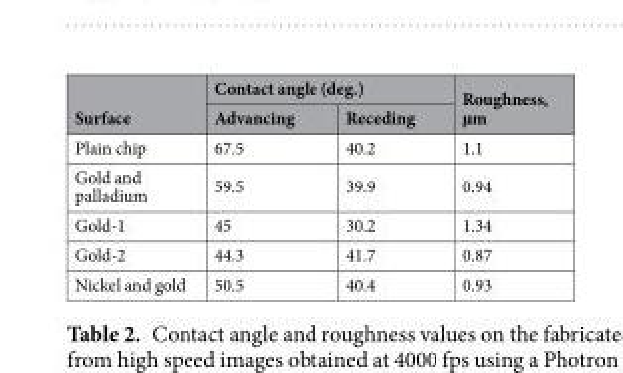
<table><thead><tr><td rowspan="2">Surface</td><td colspan="2">Contact angle (deg.)</td><td rowspan="2">Roughness, µm</td></tr><tr><td>Advancing</td><td>Receding</td></tr></thead><tbody><tr><td>Plain chip</td><td>67.5</td><td>40.2</td><td>1.1</td></tr><tr><td>Gold and palladium</td><td>59.5</td><td>39.9</td><td>0.94</td></tr><tr><td>Gold-1</td><td>45</td><td>30.2</td><td>1.34</td></tr><tr><td>Gold-2</td><td>44.3</td><td>41.7</td><td>0.87</td></tr><tr><td>Nickel and gold</td><td>50.5</td><td>40.4</td><td>0.93</td></tr></tbody></table>